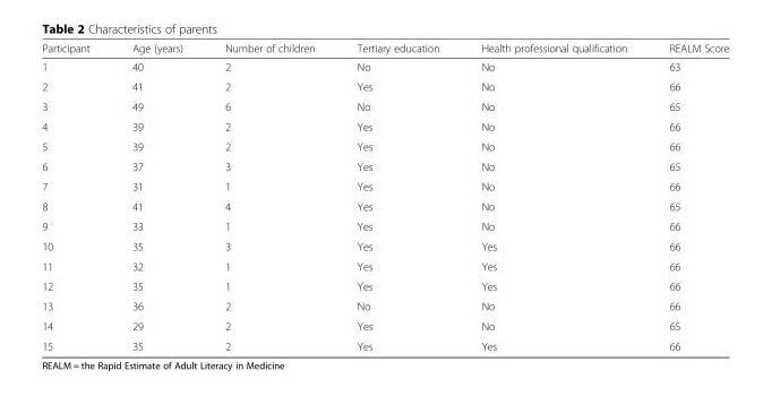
<table><thead><tr><td>Participant</td><td>Age (years)</td><td>Number of children</td><td>Tertiary education</td><td>Health professional qualification</td><td>REALM Score</td></tr></thead><tbody><tr><td>1</td><td>40</td><td>2</td><td>No</td><td>No</td><td>63</td></tr><tr><td>2</td><td>41</td><td>2</td><td>Yes</td><td>No</td><td>66</td></tr><tr><td>3</td><td>49</td><td>6</td><td>No</td><td>No</td><td>65</td></tr><tr><td>4</td><td>39</td><td>2</td><td>Yes</td><td>No</td><td>66</td></tr><tr><td>5</td><td>39</td><td>2</td><td>Yes</td><td>No</td><td>66</td></tr><tr><td>6</td><td>37</td><td>3</td><td>Yes</td><td>No</td><td>65</td></tr><tr><td>7</td><td>31</td><td>1</td><td>Yes</td><td>No</td><td>66</td></tr><tr><td>8</td><td>41</td><td>4</td><td>Yes</td><td>No</td><td>65</td></tr><tr><td>9</td><td>33</td><td>1</td><td>Yes</td><td>No</td><td>66</td></tr><tr><td>10</td><td>35</td><td>3</td><td>Yes</td><td>Yes</td><td>66</td></tr><tr><td>11</td><td>32</td><td>1</td><td>Yes</td><td>Yes</td><td>66</td></tr><tr><td>12</td><td>35</td><td>1</td><td>Yes</td><td>Yes</td><td>66</td></tr><tr><td>13</td><td>36</td><td>2</td><td>No</td><td>No</td><td>66</td></tr><tr><td>14</td><td>29</td><td>2</td><td>Yes</td><td>No</td><td>65</td></tr><tr><td>15</td><td>35</td><td>2</td><td>Yes</td><td>Yes</td><td>66</td></tr></tbody></table>